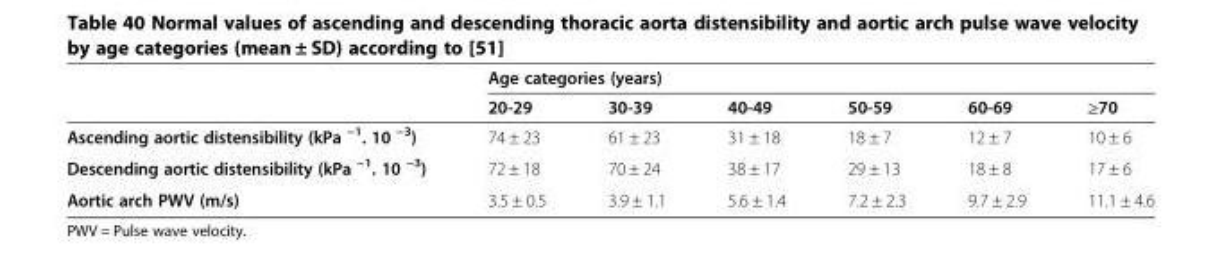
<table><thead><tr><td rowspan="2"></td><td colspan="6">Age categories (years)</td></tr><tr><td>20-29</td><td>30-39</td><td>40-49</td><td>50-59</td><td>60-69</td><td>≥70</td></tr></thead><tbody><tr><td>Ascending aortic distensibility (kPa <sup>−1</sup>. 10 <sup>−3</sup>)</td><td>74 ± 23</td><td>61 ± 23</td><td>31 ± 18</td><td>18 ± 7</td><td>12 ± 7</td><td>10 ± 6</td></tr><tr><td>Descending aortic distensibility (kPa <sup>−1</sup>. 10 <sup>−3</sup>)</td><td>72 ± 18</td><td>70 ± 24</td><td>38 ± 17</td><td>29 ± 13</td><td>18 ± 8</td><td>17 ± 6</td></tr><tr><td>Aortic arch PWV (m/s)</td><td>3.5 ± 0.5</td><td>3.9 ± 1.1</td><td>5.6 ± 1.4</td><td>7.2 ± 2.3</td><td>9.7 ± 2.9</td><td>11.1 ± 4.6</td></tr></tbody></table>